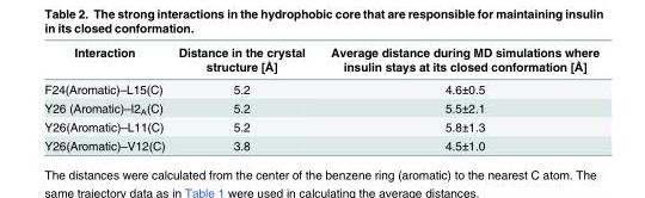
<table><thead><tr><td>Interaction</td><td>Distance in the crystal structure [Å]</td><td>Average distance during MD simulations where insulin stays at its closed conformation [Å]</td></tr></thead><tbody><tr><td>F24(Aromatic)–L15(C)</td><td>5.2</td><td>4.6±0.5</td></tr><tr><td>Y26 (Aromatic)–I2<sub>A</sub>(C)</td><td>5.2</td><td>5.5±2.1</td></tr><tr><td>Y26(Aromatic)–L11(C)</td><td>5.2</td><td>5.8±1.3</td></tr><tr><td>Y26(Aromatic)–V12(C)</td><td>3.8</td><td>4.5±1.0</td></tr></tbody></table>